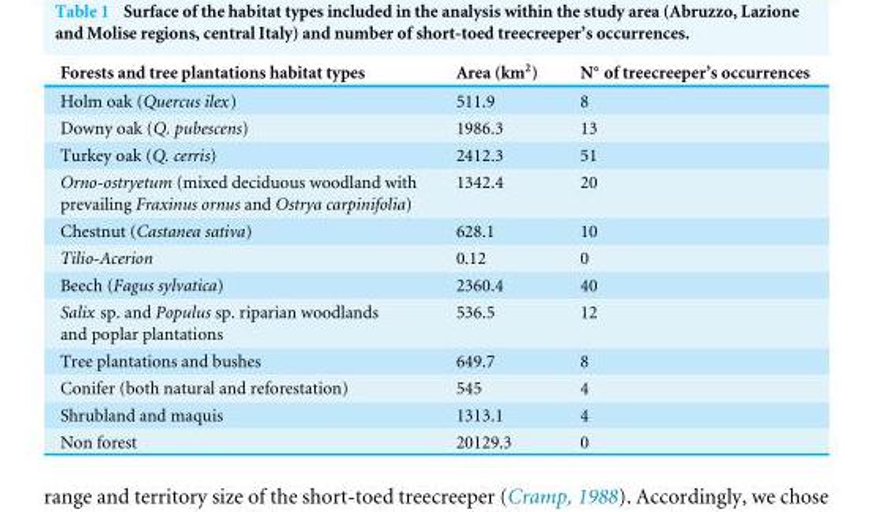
<table><thead><tr><td>Forests and tree plantations habitat types</td><td>Area (km<sup>2</sup>)</td><td>N◦ of treecreeper’s occurrences</td></tr></thead><tbody><tr><td>Holm oak (Quercus ilex)</td><td>511.9</td><td>8</td></tr><tr><td>Downy oak (Q. pubescens)</td><td>1986.3</td><td>13</td></tr><tr><td>Turkey oak (Q. cerris)</td><td>2412.3</td><td>51</td></tr><tr><td>Orno-ostryetum (mixed deciduous woodland with prevailing Fraxinus ornus and Ostrya carpinifolia)</td><td>1342.4</td><td>20</td></tr><tr><td>Chestnut (Castanea sativa)</td><td>628.1</td><td>10</td></tr><tr><td>Tilio-Acerion</td><td>0.12</td><td>0</td></tr><tr><td>Beech (Fagus sylvatica)</td><td>2360.4</td><td>40</td></tr><tr><td>Salix sp. and Populus sp. riparian woodlands and poplar plantations</td><td>536.5</td><td>12</td></tr><tr><td>Tree plantations and bushes</td><td>649.7</td><td>8</td></tr><tr><td>Conifer (both natural and reforestation)</td><td>545</td><td>4</td></tr><tr><td>Shrubland and maquis</td><td>1313.1</td><td>4</td></tr><tr><td>Non forest</td><td>20129.3</td><td>0</td></tr></tbody></table>